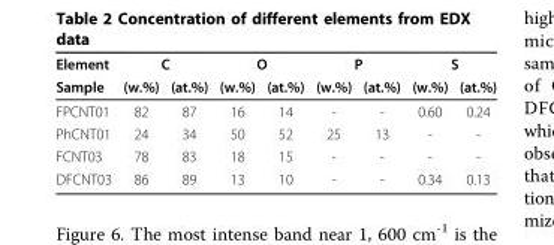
<table><thead><tr><td rowspan="2">Element Sample</td><td colspan="2">C</td><td colspan="2">O</td><td colspan="2">P</td><td colspan="2">S</td></tr><tr><td>(w.%)</td><td>(at.%)</td><td>(w.%)</td><td>(at.%)</td><td>(w.%)</td><td>(at.%)</td><td>(w.%)</td><td>(at.%)</td></tr></thead><tbody><tr><td>FPCNT01</td><td>82</td><td>87</td><td>16</td><td>14</td><td>-</td><td>-</td><td>0.60</td><td>0.24</td></tr><tr><td>PhCNT01</td><td>24</td><td>34</td><td>50</td><td>52</td><td>25</td><td>13</td><td>-</td><td>-</td></tr><tr><td>FCNT03</td><td>78</td><td>83</td><td>18</td><td>15</td><td>-</td><td>-</td><td>-</td><td>-</td></tr><tr><td>DFCNT03</td><td>86</td><td>89</td><td>13</td><td>10</td><td>-</td><td>-</td><td>0.34</td><td>0.13</td></tr></tbody></table>